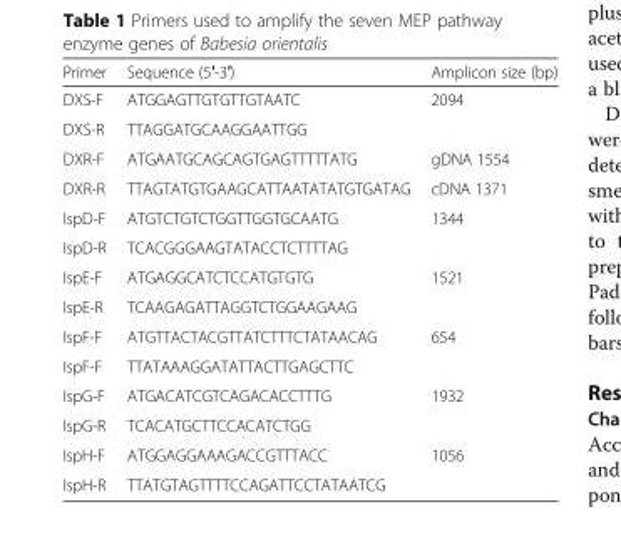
<table><thead><tr><td>Primer</td><td>Sequence (5′-3′)</td><td>Amplicon size (bp)</td></tr></thead><tbody><tr><td>DXS-F</td><td>ATGGAGTTGTGTTGTAATC</td><td>2094</td></tr><tr><td>DXS-R</td><td>TTAGGATGCAAGGAATTGG</td><td></td></tr><tr><td>DXR-F</td><td>ATGAATGCAGCAGTGAGTTTTTATG</td><td>gDNA 1554</td></tr><tr><td>DXR-R</td><td>TTAGTATGTGAAGCATTAATATATGTGATAG</td><td>cDNA 1371</td></tr><tr><td>IspD-F</td><td>ATGTCTGTCTGGTTGGTGCAATG</td><td>1344</td></tr><tr><td>IspD-R</td><td>TCACGGGAAGTATACCTCTTTTAG</td><td></td></tr><tr><td>IspE-F</td><td>ATGAGGCATCTCCATGTGTG</td><td>1521</td></tr><tr><td>IspE-R</td><td>TCAAGAGATTAGGTCTGGAAGAAG</td><td></td></tr><tr><td>IspF-F</td><td>ATGTTACTACGTTATCTTTCTATAACAG</td><td>654</td></tr><tr><td>IspF-F</td><td>TTATAAAGGATATTACTTGAGCTTC</td><td></td></tr><tr><td>IspG-F</td><td>ATGACATCGTCAGACACCTTTG</td><td>1932</td></tr><tr><td>IspG-R</td><td>TCACATGCTTCCACATCTGG</td><td></td></tr><tr><td>IspH-F</td><td>ATGGAGGAAAGACCGTTTACC</td><td>1056</td></tr><tr><td>IspH-R</td><td>TTATGTAGTTTTCCAGATTCCTATAATCG</td><td></td></tr></tbody></table>